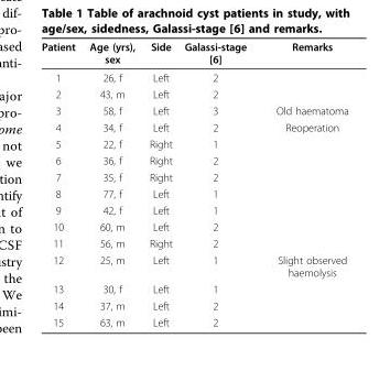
<table><thead><tr><td>Patient</td><td>Age (yrs), sex</td><td>Side</td><td>Galassi-stage [6]</td><td>Remarks</td></tr></thead><tbody><tr><td>1</td><td>26, f</td><td>Left</td><td>2</td><td></td></tr><tr><td>2</td><td>43, m</td><td>Left</td><td>2</td><td></td></tr><tr><td>3</td><td>58, f</td><td>Left</td><td>3</td><td>Old haematoma</td></tr><tr><td>4</td><td>34, f</td><td>Left</td><td>2</td><td>Reoperation</td></tr><tr><td>5</td><td>22, f</td><td>Right</td><td>1</td><td></td></tr><tr><td>6</td><td>36, f</td><td>Right</td><td>2</td><td></td></tr><tr><td>7</td><td>35, f</td><td>Right</td><td>2</td><td></td></tr><tr><td>8</td><td>77, f</td><td>Left</td><td>1</td><td></td></tr><tr><td>9</td><td>42, f</td><td>Left</td><td>1</td><td></td></tr><tr><td>10</td><td>60, m</td><td>Left</td><td>2</td><td></td></tr><tr><td>11</td><td>56, m</td><td>Right</td><td>2</td><td></td></tr><tr><td>12</td><td>25, m</td><td>Left</td><td>1</td><td>Slight observed haemolysis</td></tr><tr><td>13</td><td>30, f</td><td>Left</td><td>1</td><td></td></tr><tr><td>14</td><td>37, m</td><td>Left</td><td>2</td><td></td></tr><tr><td>15</td><td>63, m</td><td>Left</td><td>2</td><td></td></tr></tbody></table>